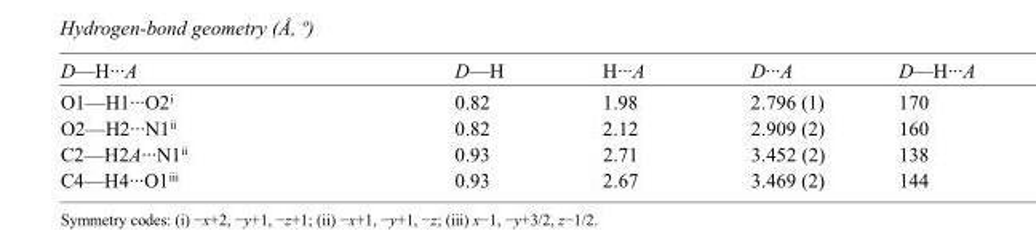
<table><tbody><tr><td>D—H···A</td><td>D—H</td><td>H···A</td><td>D···A</td><td>D—H···A</td></tr><tr><td>O1—H1···O2<sup>i</sup></td><td>0.82</td><td>1.98</td><td>2.796 (1)</td><td>170</td></tr><tr><td>O2—H2···N1<sup>ii</sup></td><td>0.82</td><td>2.12</td><td>2.909 (2)</td><td>160</td></tr><tr><td>C2—H2A···N1<sup>ii</sup></td><td>0.93</td><td>2.71</td><td>3.452 (2)</td><td>138</td></tr><tr><td>C4—H4···O1<sup>iii</sup></td><td>0.93</td><td>2.67</td><td>3.469 (2)</td><td>144</td></tr></tbody></table>